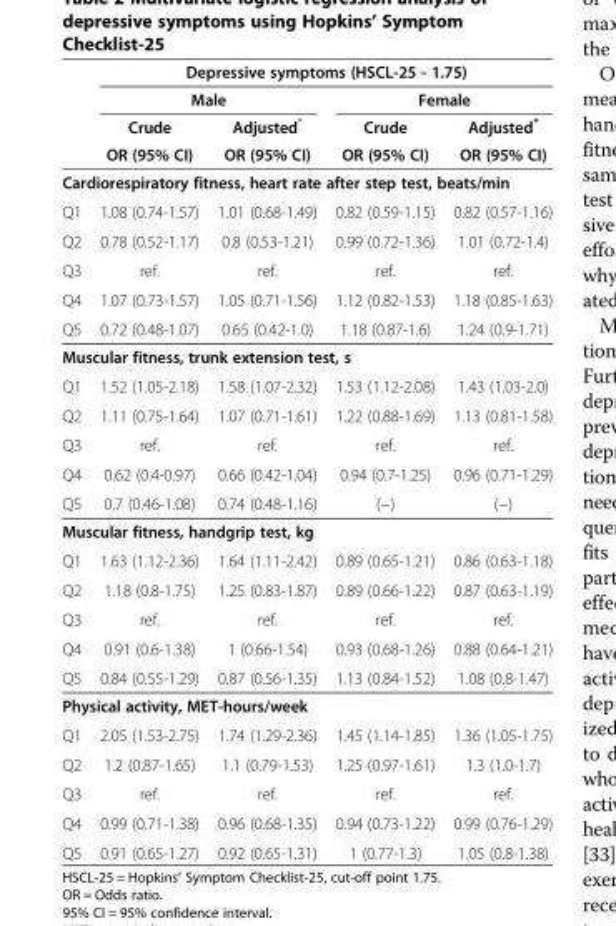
<table><thead><tr><td rowspan="4"></td><td colspan="4">Depressive symptoms (HSCL-25 - 1.75)</td></tr><tr><td colspan="2">Male</td><td colspan="2">Female</td></tr><tr><td rowspan="2">Crude OR (95% CI)</td><td rowspan="2">Adjusted* OR (95% CI)</td><td rowspan="2">Crude OR (95% CI)</td><td rowspan="2">Adjusted* OR (95% CI)</td></tr><tr></tr></thead><tbody><tr><td colspan="5">Cardiorespiratory fitness, heart rate after step test, beats/min</td></tr><tr><td>Q1</td><td>1.08 (0.74-1.57)</td><td>1.01 (0.68-1.49)</td><td>0.82 (0.59-1.15)</td><td>0.82 (0.57-1.16)</td></tr><tr><td>Q2</td><td>0.78 (0.52-1.17)</td><td>0.8 (0.53-1.21)</td><td>0.99 (0.72-1.36)</td><td>1.01 (0.72-1.4)</td></tr><tr><td>Q3</td><td>ref.</td><td>ref.</td><td>ref.</td><td>ref.</td></tr><tr><td>Q4</td><td>1.07 (0.73-1.57)</td><td>1.05 (0.71-1.56)</td><td>1.12 (0.82-1.53)</td><td>1.18 (0.85-1.63)</td></tr><tr><td>Q5</td><td>0.72 (0.48-1.07)</td><td>0.65 (0.42-1.0)</td><td>1.18 (0.87-1.6)</td><td>1.24 (0.9-1.71)</td></tr><tr><td colspan="5">Muscular fitness, trunk extension test, s</td></tr><tr><td>Q1</td><td>1.52 (1.05-2.18)</td><td>1.58 (1.07-2.32)</td><td>1.53 (1.12-2.08)</td><td>1.43 (1.03-2.0)</td></tr><tr><td>Q2</td><td>1.11 (0.75-1.64)</td><td>1.07 (0.71-1.61)</td><td>1.22 (0.88-1.69)</td><td>1.13 (0.81-1.58)</td></tr><tr><td>Q3</td><td>ref.</td><td>ref.</td><td>ref.</td><td>ref.</td></tr><tr><td>Q4</td><td>0.62 (0.4-0.97)</td><td>0.66 (0.42-1.04)</td><td>0.94 (0.7-1.25)</td><td>0.96 (0.71-1.29)</td></tr><tr><td>Q5</td><td>0.7 (0.46-1.08)</td><td>0.74 (0.48-1.16)</td><td>(−)</td><td>(−)</td></tr><tr><td colspan="5">Muscular fitness, handgrip test, kg</td></tr><tr><td>Q1</td><td>1.63 (1.12-2.36)</td><td>1.64 (1.11-2.42)</td><td>0.89 (0.65-1.21)</td><td>0.86 (0.63-1.18)</td></tr><tr><td>Q2</td><td>1.18 (0.8-1.75)</td><td>1.25 (0.83-1.87)</td><td>0.89 (0.66-1.22)</td><td>0.87 (0.63-1.19)</td></tr><tr><td>Q3</td><td>ref.</td><td>ref.</td><td>ref.</td><td>ref.</td></tr><tr><td>Q4</td><td>0.91 (0.6-1.38)</td><td>1 (0.66-1.54)</td><td>0.93 (0.68-1.26)</td><td>0.88 (0.64-1.21)</td></tr><tr><td>Q5</td><td>0.84 (0.55-1.29)</td><td>0.87 (0.56-1.35)</td><td>1.13 (0.84-1.52)</td><td>1.08 (0.8-1.47)</td></tr><tr><td colspan="5">Physical activity, MET-hours/week</td></tr><tr><td>Q1</td><td>2.05 (1.53-2.75)</td><td>1.74 (1.29-2.36)</td><td>1.45 (1.14-1.85)</td><td>1.36 (1.05-1.75)</td></tr><tr><td>Q2</td><td>1.2 (0.87-1.65)</td><td>1.1 (0.79-1.53)</td><td>1.25 (0.97-1.61)</td><td>1.3 (1.0-1.7)</td></tr><tr><td>Q3</td><td>ref.</td><td>ref.</td><td>ref.</td><td>ref.</td></tr><tr><td>Q4</td><td>0.99 (0.71-1.38)</td><td>0.96 (0.68-1.35)</td><td>0.94 (0.73-1.22)</td><td>0.99 (0.76-1.29)</td></tr><tr><td>Q5</td><td>0.91 (0.65-1.27)</td><td>0.92 (0.65-1.31)</td><td>1 (0.77-1.3)</td><td>1.05 (0.8-1.38)</td></tr></tbody></table>